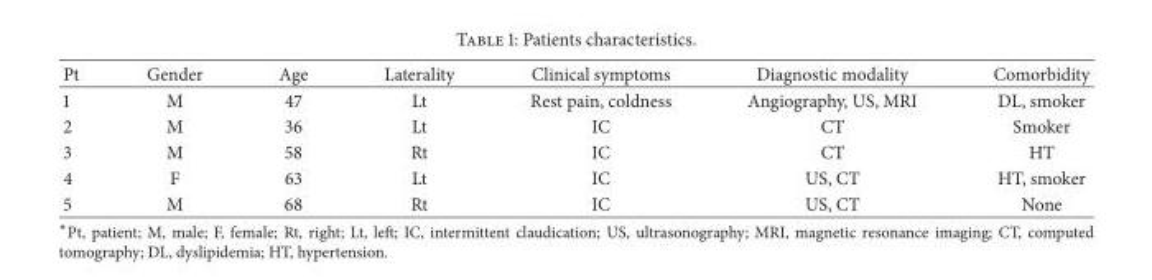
<table><thead><tr><td>Pt</td><td>Gender</td><td>Age</td><td>Laterality</td><td>Clinical symptoms</td><td>Diagnostic modality</td><td>Comorbidity</td></tr></thead><tbody><tr><td>1</td><td>M</td><td>47</td><td>Lt</td><td>Rest pain, coldness</td><td>Angiography, US, MRI</td><td>DL, smoker</td></tr><tr><td>2</td><td>M</td><td>36</td><td>Lt</td><td>IC</td><td>CT</td><td>Smoker</td></tr><tr><td>3</td><td>M</td><td>58</td><td>Rt</td><td>IC</td><td>CT</td><td>HT</td></tr><tr><td>4</td><td>F</td><td>63</td><td>Lt</td><td>IC</td><td>US, CT</td><td>HT, smoker</td></tr><tr><td>5</td><td>M</td><td>68</td><td>Rt</td><td>IC</td><td>US, CT</td><td>None</td></tr></tbody></table>